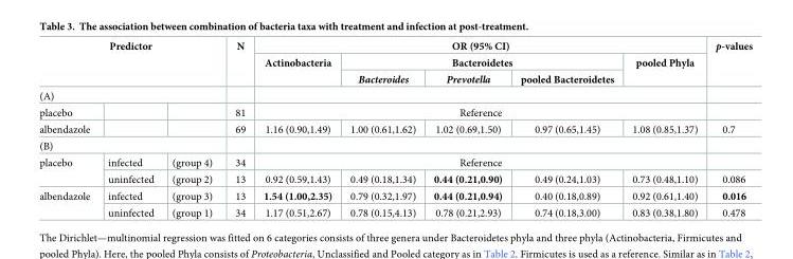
<table><thead><tr><td rowspan="4" colspan="3">Predictor (A)</td><td rowspan="5">N 81</td><td colspan="5">OR (95% CI)</td><td rowspan="5">p-values</td></tr><tr><td rowspan="2">Actinobacteria</td><td colspan="3">Bacteroidetes</td><td rowspan="2">pooled Phyla</td></tr><tr><td>Bacteroides</td><td>Prevotella</td><td>pooled Bacteroidetes</td></tr><tr><td rowspan="2" colspan="5">Reference</td></tr><tr><td>placebo</td><td></td><td></td></tr></thead><tbody><tr><td>albendazole</td><td></td><td></td><td>69</td><td>1.16 (0.90,1.49)</td><td>1.00 (0.61,1.62)</td><td>1.02 (0.69,1.50)</td><td>0.97 (0.65,1.45)</td><td>1.08 (0.85,1.37)</td><td>0.7</td></tr><tr><td colspan="10">(B)</td></tr><tr><td rowspan="2">placebo</td><td>infected</td><td>(group 4)</td><td>34</td><td colspan="5">Reference</td><td></td></tr><tr><td>uninfected</td><td>(group 2)</td><td>13</td><td>0.92 (0.59,1.43)</td><td>0.49 (0.18,1.34)</td><td>0.44 (0.21,0.90)</td><td>0.49 (0.24,1.03)</td><td>0.73 (0.48,1.10)</td><td>0.086</td></tr><tr><td rowspan="2">albendazole</td><td>infected</td><td>(group 3)</td><td>13</td><td>1.54 (1.00,2.35)</td><td>0.79 (0.32,1.97)</td><td>0.44 (0.21,0.94)</td><td>0.40 (0.18,0.89)</td><td>0.92 (0.61,1.40)</td><td>0.016</td></tr><tr><td>uninfected</td><td>(group 1)</td><td>34</td><td>1.17 (0.51,2.67)</td><td>0.78 (0.15,4.13)</td><td>0.78 (0.21,2.93)</td><td>0.74 (0.18,3.00)</td><td>0.83 (0.38,1.80)</td><td>0.478</td></tr></tbody></table>